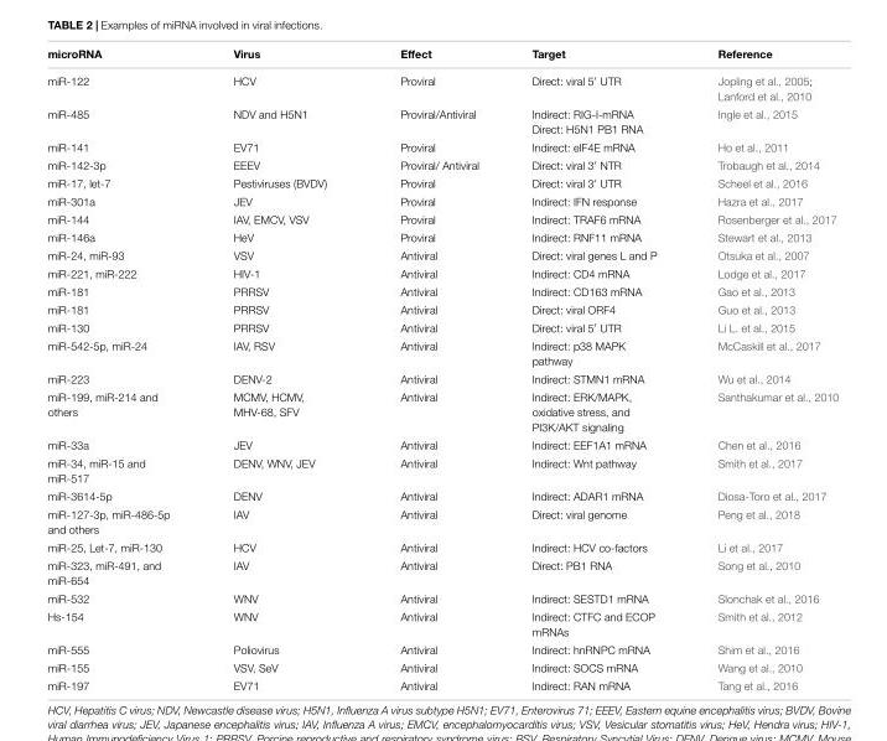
<table><thead><tr><td>microRNA</td><td>Virus</td><td>Effect</td><td>Target</td><td>Reference</td></tr></thead><tbody><tr><td>miR-122</td><td>HCV</td><td>Proviral</td><td>Direct: viral 5′ UTR</td><td>Jopling et al., 2005; Lanford et al., 2010</td></tr><tr><td>miR-485</td><td>NDV and H5N1</td><td>Proviral/Antiviral</td><td>Indirect: RIG-I-mRNA Direct: H5N1 PB1 RNA</td><td>Ingle et al., 2015</td></tr><tr><td>miR-141</td><td>EV71</td><td>Proviral</td><td>Indirect: eIF4E mRNA</td><td>Ho et al., 2011</td></tr><tr><td>miR-142-3p</td><td>EEEV</td><td>Proviral/ Antiviral</td><td>Direct: viral 3′ NTR</td><td>Trobaugh et al., 2014</td></tr><tr><td>miR-17, let-7</td><td>Pestiviruses (BVDV)</td><td>Proviral</td><td>Direct: viral 3′ UTR</td><td>Scheel et al., 2016</td></tr><tr><td>miR-301a</td><td>JEV</td><td>Proviral</td><td>Indirect: IFN response</td><td>Hazra et al., 2017</td></tr><tr><td>miR-144</td><td>IAV, EMCV, VSV</td><td>Proviral</td><td>Indirect: TRAF6 mRNA</td><td>Rosenberger et al., 2017</td></tr><tr><td>miR-146a</td><td>HeV</td><td>Proviral</td><td>Indirect: RNF11 mRNA</td><td>Stewart et al., 2013</td></tr><tr><td>miR-24, miR-93</td><td>VSV</td><td>Antiviral</td><td>Direct: viral genes L and P</td><td>Otsuka et al., 2007</td></tr><tr><td>miR-221, miR-222</td><td>HIV-1</td><td>Antiviral</td><td>Indirect: CD4 mRNA</td><td>Lodge et al., 2017</td></tr><tr><td>miR-181</td><td>PRRSV</td><td>Antiviral</td><td>Indirect: CD163 mRNA</td><td>Gao et al., 2013</td></tr><tr><td>miR-181</td><td>PRRSV</td><td>Antiviral</td><td>Direct: viral ORF4</td><td>Guo et al., 2013</td></tr><tr><td>miR-130</td><td>PRRSV</td><td>Antiviral</td><td>Direct: viral 5′ UTR</td><td>Li L. et al., 2015</td></tr><tr><td>miR-542-5p, miR-24</td><td>IAV, RSV</td><td>Antiviral</td><td>Indirect: p38 MAPK pathway</td><td>McCaskill et al., 2017</td></tr><tr><td>miR-223</td><td>DENV-2</td><td>Antiviral</td><td>Indirect: STMN1 mRNA</td><td>Wu et al., 2014</td></tr><tr><td>miR-199, miR-214 and others</td><td>MCMV, HCMV, MHV-68, SFV</td><td>Antiviral</td><td>Indirect: ERK/MAPK, oxidative stress, and PI3K/AKT signaling</td><td>Santhakumar et al., 2010</td></tr><tr><td>miR-33a</td><td>JEV</td><td>Antiviral</td><td>Indirect: EEF1A1 mRNA</td><td>Chen et al., 2016</td></tr><tr><td>miR-34, miR-15 and miR-517</td><td>DENV, WNV, JEV</td><td>Antiviral</td><td>Indirect: Wnt pathway</td><td>Smith et al., 2017</td></tr><tr><td>miR-3614-5p</td><td>DENV</td><td>Antiviral</td><td>Indirect: ADAR1 mRNA</td><td>Diosa-Toro et al., 2017</td></tr><tr><td>miR-127-3p, miR-486-5p and others</td><td>IAV</td><td>Antiviral</td><td>Direct: viral genome</td><td>Peng et al., 2018</td></tr><tr><td>miR-25, Let-7, miR-130</td><td>HCV</td><td>Antiviral</td><td>Indirect: HCV co-factors</td><td>Li et al., 2017</td></tr><tr><td>miR-323, miR-491, and miR-654</td><td>IAV</td><td>Antiviral</td><td>Direct: PB1 RNA</td><td>Song et al., 2010</td></tr><tr><td>miR-532</td><td>WNV</td><td>Antiviral</td><td>Indirect: SESTD1 mRNA</td><td>Slonchak et al., 2016</td></tr><tr><td>Hs-154</td><td>WNV</td><td>Antiviral</td><td>Indirect: CTFC and ECOP mRNAs</td><td>Smith et al., 2012</td></tr><tr><td>miR-555</td><td>Poliovirus</td><td>Antiviral</td><td>Indirect: hnRNPC mRNA</td><td>Shim et al., 2016</td></tr><tr><td>miR-155</td><td>VSV, SeV</td><td>Antiviral</td><td>Indirect: SOCS mRNA</td><td>Wang et al., 2010</td></tr><tr><td>miR-197</td><td>EV71</td><td>Antiviral</td><td>Indirect: RAN mRNA</td><td>Tang et al., 2016</td></tr></tbody></table>